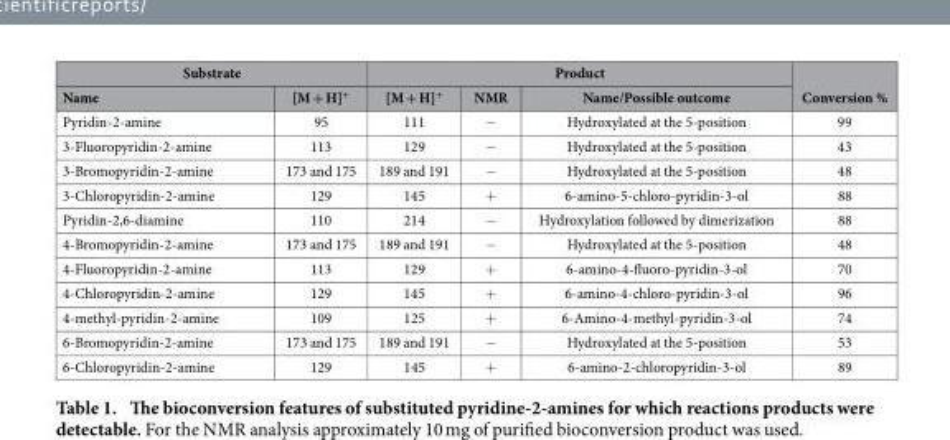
<table><thead><tr><td colspan="2">Substrate</td><td colspan="3">Product</td><td rowspan="2">Conversion %</td></tr><tr><td>Name</td><td>[M + H]<sup>+</sup></td><td>[M + H]<sup>+</sup></td><td>NMR</td><td>Name/Possible outcome</td></tr></thead><tbody><tr><td>Pyridin-2-amine</td><td>95</td><td>111</td><td>−</td><td>Hydroxylated at the 5-position</td><td>99</td></tr><tr><td>3-Fluoropyridin-2-amine</td><td>113</td><td>129</td><td>−</td><td>Hydroxylated at the 5-position</td><td>43</td></tr><tr><td>3-Bromopyridin-2-amine</td><td>173 and 175</td><td>189 and 191</td><td>−</td><td>Hydroxylated at the 5-position</td><td>48</td></tr><tr><td>3-Chloropyridin-2-amine</td><td>129</td><td>145</td><td>+</td><td>6-amino-5-chloro-pyridin-3-ol</td><td>88</td></tr><tr><td>Pyridin-2,6-diamine</td><td>110</td><td>214</td><td>−</td><td>Hydroxylation followed by dimerization</td><td>88</td></tr><tr><td>4-Bromopyridin-2-amine</td><td>173 and 175</td><td>189 and 191</td><td>−</td><td>Hydroxylated at the 5-position</td><td>48</td></tr><tr><td>4-Fluoropyridin-2-amine</td><td>113</td><td>129</td><td>+</td><td>6-amino-4-fluoro-pyridin-3-ol</td><td>70</td></tr><tr><td>4-Chloropyridin-2-amine</td><td>129</td><td>145</td><td>+</td><td>6-amino-4-chloro-pyridin-3-ol</td><td>96</td></tr><tr><td>4-methyl-pyridin-2-amine</td><td>109</td><td>125</td><td>+</td><td>6-Amino-4-methyl-pyridin-3-ol</td><td>74</td></tr><tr><td>6-Bromopyridin-2-amine</td><td>173 and 175</td><td>189 and 191</td><td>−</td><td>Hydroxylated at the 5-position</td><td>53</td></tr><tr><td>6-Chloropyridin-2-amine</td><td>129</td><td>145</td><td>+</td><td>6-amino-2-chloropyridin-3-ol</td><td>89</td></tr></tbody></table>